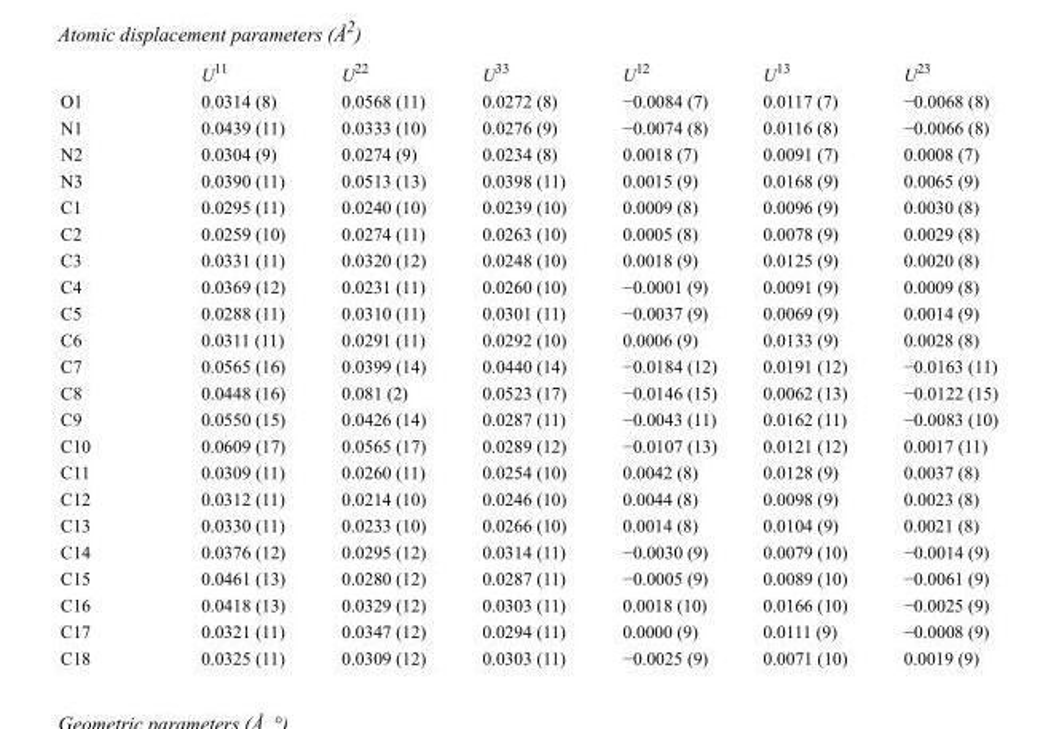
<table><thead><tr><td></td><td>U<sup>11</sup></td><td>U<sup>22</sup></td><td>U<sup>33</sup></td><td>U<sup>12</sup></td><td>U<sup>13</sup></td><td>U<sup>23</sup></td></tr></thead><tbody><tr><td>O1</td><td>0.0314 (8)</td><td>0.0568 (11)</td><td>0.0272 (8)</td><td>−0.0084 (7)</td><td>0.0117 (7)</td><td>−0.0068 (8)</td></tr><tr><td>N1</td><td>0.0439 (11)</td><td>0.0333 (10)</td><td>0.0276 (9)</td><td>−0.0074 (8)</td><td>0.0116 (8)</td><td>−0.0066 (8)</td></tr><tr><td>N2</td><td>0.0304 (9)</td><td>0.0274 (9)</td><td>0.0234 (8)</td><td>0.0018 (7)</td><td>0.0091 (7)</td><td>0.0008 (7)</td></tr><tr><td>N3</td><td>0.0390 (11)</td><td>0.0513 (13)</td><td>0.0398 (11)</td><td>0.0015 (9)</td><td>0.0168 (9)</td><td>0.0065 (9)</td></tr><tr><td>C1</td><td>0.0295 (11)</td><td>0.0240 (10)</td><td>0.0239 (10)</td><td>0.0009 (8)</td><td>0.0096 (9)</td><td>0.0030 (8)</td></tr><tr><td>C2</td><td>0.0259 (10)</td><td>0.0274 (11)</td><td>0.0263 (10)</td><td>0.0005 (8)</td><td>0.0078 (9)</td><td>0.0029 (8)</td></tr><tr><td>C3</td><td>0.0331 (11)</td><td>0.0320 (12)</td><td>0.0248 (10)</td><td>0.0018 (9)</td><td>0.0125 (9)</td><td>0.0020 (8)</td></tr><tr><td>C4</td><td>0.0369 (12)</td><td>0.0231 (11)</td><td>0.0260 (10)</td><td>−0.0001 (9)</td><td>0.0091 (9)</td><td>0.0009 (8)</td></tr><tr><td>C5</td><td>0.0288 (11)</td><td>0.0310 (11)</td><td>0.0301 (11)</td><td>−0.0037 (9)</td><td>0.0069 (9)</td><td>0.0014 (9)</td></tr><tr><td>C6</td><td>0.0311 (11)</td><td>0.0291 (11)</td><td>0.0292 (10)</td><td>0.0006 (9)</td><td>0.0133 (9)</td><td>0.0028 (8)</td></tr><tr><td>C7</td><td>0.0565 (16)</td><td>0.0399 (14)</td><td>0.0440 (14)</td><td>−0.0184 (12)</td><td>0.0191 (12)</td><td>−0.0163 (11)</td></tr><tr><td>C8</td><td>0.0448 (16)</td><td>0.081 (2)</td><td>0.0523 (17)</td><td>−0.0146 (15)</td><td>0.0062 (13)</td><td>−0.0122 (15)</td></tr><tr><td>C9</td><td>0.0550 (15)</td><td>0.0426 (14)</td><td>0.0287 (11)</td><td>−0.0043 (11)</td><td>0.0162 (11)</td><td>−0.0083 (10)</td></tr><tr><td>C10</td><td>0.0609 (17)</td><td>0.0565 (17)</td><td>0.0289 (12)</td><td>−0.0107 (13)</td><td>0.0121 (12)</td><td>0.0017 (11)</td></tr><tr><td>C11</td><td>0.0309 (11)</td><td>0.0260 (11)</td><td>0.0254 (10)</td><td>0.0042 (8)</td><td>0.0128 (9)</td><td>0.0037 (8)</td></tr><tr><td>C12</td><td>0.0312 (11)</td><td>0.0214 (10)</td><td>0.0246 (10)</td><td>0.0044 (8)</td><td>0.0098 (9)</td><td>0.0023 (8)</td></tr><tr><td>C13</td><td>0.0330 (11)</td><td>0.0233 (10)</td><td>0.0266 (10)</td><td>0.0014 (8)</td><td>0.0104 (9)</td><td>0.0021 (8)</td></tr><tr><td>C14</td><td>0.0376 (12)</td><td>0.0295 (12)</td><td>0.0314 (11)</td><td>−0.0030 (9)</td><td>0.0079 (10)</td><td>−0.0014 (9)</td></tr><tr><td>C15</td><td>0.0461 (13)</td><td>0.0280 (12)</td><td>0.0287 (11)</td><td>−0.0005 (9)</td><td>0.0089 (10)</td><td>−0.0061 (9)</td></tr><tr><td>C16</td><td>0.0418 (13)</td><td>0.0329 (12)</td><td>0.0303 (11)</td><td>0.0018 (10)</td><td>0.0166 (10)</td><td>−0.0025 (9)</td></tr><tr><td>C17</td><td>0.0321 (11)</td><td>0.0347 (12)</td><td>0.0294 (11)</td><td>0.0000 (9)</td><td>0.0111 (9)</td><td>−0.0008 (9)</td></tr><tr><td>C18</td><td>0.0325 (11)</td><td>0.0309 (12)</td><td>0.0303 (11)</td><td>−0.0025 (9)</td><td>0.0071 (10)</td><td>0.0019 (9)</td></tr></tbody></table>